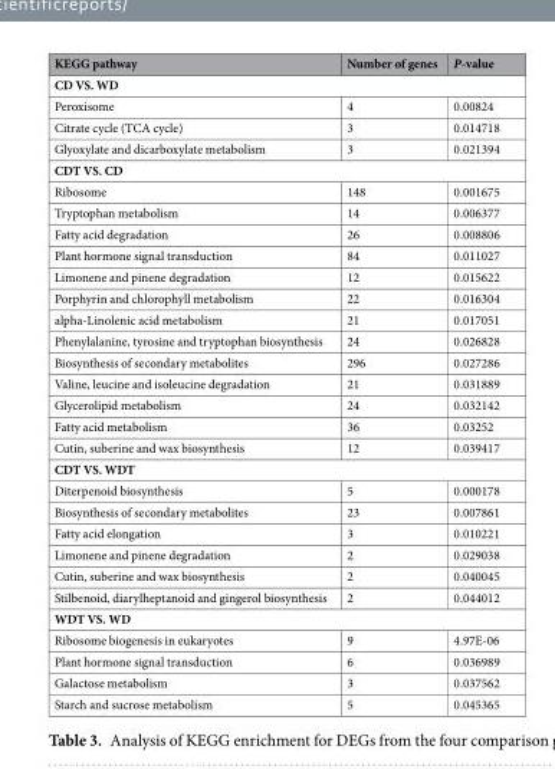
<table><thead><tr><td>KEGG pathway</td><td>Number of genes</td><td>P-value</td></tr></thead><tbody><tr><td colspan="3">CD VS. WD</td></tr><tr><td>Peroxisome</td><td>4</td><td>0.00824</td></tr><tr><td>Citrate cycle (TCA cycle)</td><td>3</td><td>0.014718</td></tr><tr><td>Glyoxylate and dicarboxylate metabolism</td><td>3</td><td>0.021394</td></tr><tr><td colspan="3">CDT VS. CD</td></tr><tr><td>Ribosome</td><td>148</td><td>0.001675</td></tr><tr><td>Tryptophan metabolism</td><td>14</td><td>0.006377</td></tr><tr><td>Fatty acid degradation</td><td>26</td><td>0.008806</td></tr><tr><td>Plant hormone signal transduction</td><td>84</td><td>0.011027</td></tr><tr><td>Limonene and pinene degradation</td><td>12</td><td>0.015622</td></tr><tr><td>Porphyrin and chlorophyll metabolism</td><td>22</td><td>0.016304</td></tr><tr><td>alpha-Linolenic acid metabolism</td><td>21</td><td>0.017051</td></tr><tr><td>Phenylalanine, tyrosine and tryptophan biosynthesis</td><td>24</td><td>0.026828</td></tr><tr><td>Biosynthesis of secondary metabolites</td><td>296</td><td>0.027286</td></tr><tr><td>Valine, leucine and isoleucine degradation</td><td>21</td><td>0.031889</td></tr><tr><td>Glycerolipid metabolism</td><td>24</td><td>0.032142</td></tr><tr><td>Fatty acid metabolism</td><td>36</td><td>0.03252</td></tr><tr><td>Cutin, suberine and wax biosynthesis</td><td>12</td><td>0.039417</td></tr><tr><td colspan="3">CDT VS. WDT</td></tr><tr><td>Diterpenoid biosynthesis</td><td>5</td><td>0.000178</td></tr><tr><td>Biosynthesis of secondary metabolites</td><td>23</td><td>0.007861</td></tr><tr><td>Fatty acid elongation</td><td>3</td><td>0.010221</td></tr><tr><td>Limonene and pinene degradation</td><td>2</td><td>0.029038</td></tr><tr><td>Cutin, suberine and wax biosynthesis</td><td>2</td><td>0.040045</td></tr><tr><td>Stilbenoid, diarylheptanoid and gingerol biosynthesis</td><td>2</td><td>0.044012</td></tr><tr><td colspan="3">WDT VS. WD</td></tr><tr><td>Ribosome biogenesis in eukaryotes</td><td>9</td><td>4.97E-06</td></tr><tr><td>Plant hormone signal transduction</td><td>6</td><td>0.036989</td></tr><tr><td>Galactose metabolism</td><td>3</td><td>0.037562</td></tr><tr><td>Starch and sucrose metabolism</td><td>5</td><td>0.045365</td></tr></tbody></table>